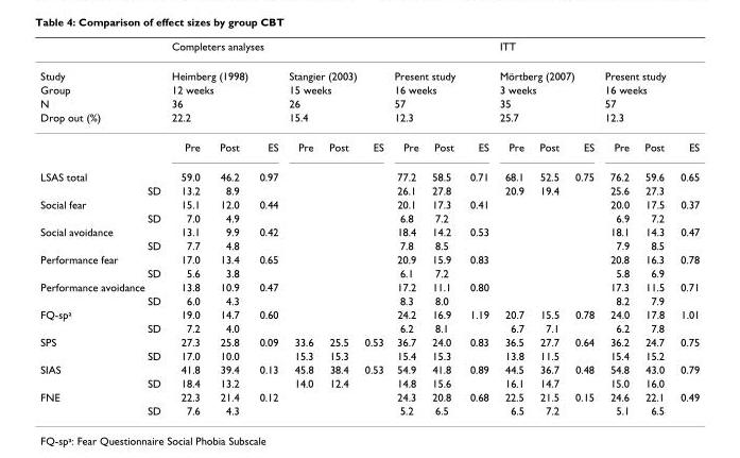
<table><thead><tr><td rowspan="4">Study Group N</td><td rowspan="3" colspan="3">Completers analyses Heimberg (1998) 12 weeks</td><td></td><td></td><td></td><td></td><td></td><td></td><td rowspan="3" colspan="3">ITT Mörtberg (2007) 3 weeks</td><td></td><td></td><td></td></tr><tr><td rowspan="2" colspan="3">Stangier (2003) 15 weeks</td><td rowspan="2" colspan="3">Present study 16 weeks</td><td rowspan="2" colspan="3">Present study 16 weeks</td></tr><tr></tr><tr><td>36</td><td></td><td></td><td>26</td><td></td><td></td><td>57</td><td></td><td></td><td>35</td><td></td><td></td><td>57</td><td></td><td></td></tr></thead><tbody><tr><td rowspan="2">Drop out (%)</td><td>22.2</td><td></td><td></td><td>15.4</td><td></td><td></td><td>12.3</td><td></td><td></td><td>25.7</td><td></td><td></td><td>12.3</td><td></td><td></td></tr><tr><td>Pre</td><td>Post</td><td>ES</td><td>Pre</td><td>Post</td><td>ES</td><td>Pre</td><td>Post</td><td>ES</td><td>Pre</td><td>Post</td><td>ES</td><td>Pre</td><td>Post</td><td>ES</td></tr><tr><td>LSAS total</td><td>59.0</td><td>46.2</td><td>0.97</td><td></td><td></td><td></td><td>77.2</td><td>58.5</td><td>0.71</td><td>68.1</td><td>52.5</td><td>0.75</td><td>76.2</td><td>59.6</td><td>0.65</td></tr><tr><td>SD</td><td>13.2</td><td>8.9</td><td></td><td></td><td></td><td></td><td>26.1</td><td>27.8</td><td></td><td>20.9</td><td>19.4</td><td></td><td>25.6</td><td>27.3</td><td></td></tr><tr><td>Social fear</td><td>15.1</td><td>12.0</td><td>0.44</td><td></td><td></td><td></td><td>20.1</td><td>17.3</td><td>0.41</td><td></td><td></td><td></td><td>20.0</td><td>17.5</td><td>0.37</td></tr><tr><td>SD</td><td>7.0</td><td>4.9</td><td></td><td></td><td></td><td></td><td>6.8</td><td>7.2</td><td></td><td></td><td></td><td></td><td>6.9</td><td>7.2</td><td></td></tr><tr><td>Social avoidance</td><td>13.1</td><td>9.9</td><td>0.42</td><td></td><td></td><td></td><td>18.4</td><td>14.2</td><td>0.53</td><td></td><td></td><td></td><td>18.1</td><td>14.3</td><td>0.47</td></tr><tr><td>SD</td><td>7.7</td><td>4.8</td><td></td><td></td><td></td><td></td><td>7.8</td><td>8.5</td><td></td><td></td><td></td><td></td><td>7.9</td><td>8.5</td><td></td></tr><tr><td>Performance fear</td><td>17.0</td><td>13.4</td><td>0.65</td><td></td><td></td><td></td><td>20.9</td><td>15.9</td><td>0.83</td><td></td><td></td><td></td><td>20.8</td><td>16.3</td><td>0.78</td></tr><tr><td>SD</td><td>5.6</td><td>3.8</td><td></td><td></td><td></td><td></td><td>6.1</td><td>7.2</td><td></td><td></td><td></td><td></td><td>5.8</td><td>6.9</td><td></td></tr><tr><td>Performance avoidance</td><td>13.8</td><td>10.9</td><td>0.47</td><td></td><td></td><td></td><td>17.2</td><td>11.1</td><td>0.80</td><td></td><td></td><td></td><td>17.3</td><td>11.5</td><td>0.71</td></tr><tr><td>SD</td><td>6.0</td><td>4.3</td><td></td><td></td><td></td><td></td><td>8.3</td><td>8.0</td><td></td><td></td><td></td><td></td><td>8.2</td><td>7.9</td><td></td></tr><tr><td>FQ-sp<sup>a</sup></td><td>19.0</td><td>14.7</td><td>0.60</td><td></td><td></td><td></td><td>24.2</td><td>16.9</td><td>1.19</td><td>20.7</td><td>15.5</td><td>0.78</td><td>24.0</td><td>17.8</td><td>1.01</td></tr><tr><td>SD</td><td>7.2</td><td>4.0</td><td></td><td></td><td></td><td></td><td>6.2</td><td>8.1</td><td></td><td>6.7</td><td>7.1</td><td></td><td>6.2</td><td>7.8</td><td></td></tr><tr><td>SPS</td><td>27.3</td><td>25.8</td><td>0.09</td><td>33.6</td><td>25.5</td><td>0.53</td><td>36.7</td><td>24.0</td><td>0.83</td><td>36.5</td><td>27.7</td><td>0.64</td><td>36.2</td><td>24.7</td><td>0.75</td></tr><tr><td>SD</td><td>17.0</td><td>10.0</td><td></td><td>15.3</td><td>15.3</td><td></td><td>15.4</td><td>15.3</td><td></td><td>13.8</td><td>11.5</td><td></td><td>15.4</td><td>15.2</td><td></td></tr><tr><td>SIAS</td><td>41.8</td><td>39.4</td><td>0.13</td><td>45.8</td><td>38.4</td><td>0.53</td><td>54.9</td><td>41.8</td><td>0.89</td><td>44.5</td><td>36.7</td><td>0.48</td><td>54.8</td><td>43.0</td><td>0.79</td></tr><tr><td>SD</td><td>18.4</td><td>13.2</td><td></td><td>14.0</td><td>12.4</td><td></td><td>14.8</td><td>15.6</td><td></td><td>16.1</td><td>14.7</td><td></td><td>15.0</td><td>16.0</td><td></td></tr><tr><td>FNE</td><td>22.3</td><td>21.4</td><td>0.12</td><td></td><td></td><td></td><td>24.3</td><td>20.8</td><td>0.68</td><td>22.5</td><td>21.5</td><td>0.15</td><td>24.6</td><td>22.1</td><td>0.49</td></tr><tr><td>SD</td><td>7.6</td><td>4.3</td><td></td><td></td><td></td><td></td><td>5.2</td><td>6.5</td><td></td><td>6.5</td><td>7.2</td><td></td><td>5.1</td><td>6.5</td><td></td></tr></tbody></table>